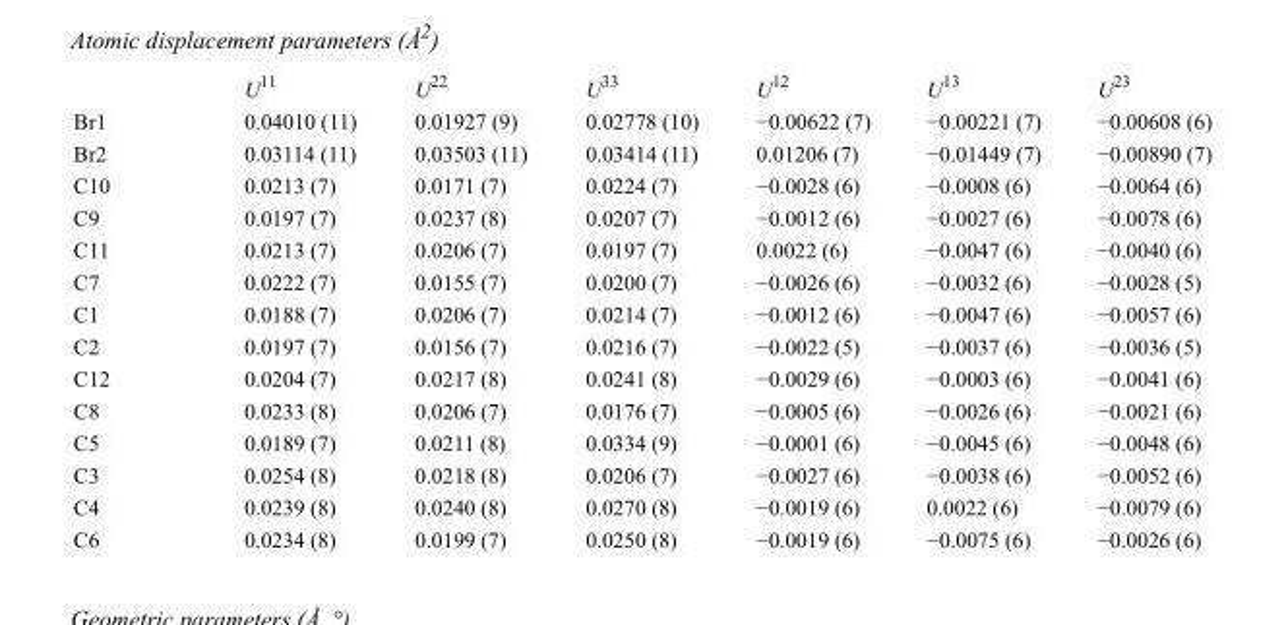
<table><thead><tr><td></td><td>U<sup>11</sup></td><td>U<sup>22</sup></td><td>U<sup>33</sup></td><td>U<sup>12</sup></td><td>U<sup>13</sup></td><td>U<sup>23</sup></td></tr></thead><tbody><tr><td>Br1</td><td>0.04010 (11)</td><td>0.01927 (9)</td><td>0.02778 (10)</td><td>−0.00622 (7)</td><td>−0.00221 (7)</td><td>−0.00608 (6)</td></tr><tr><td>Br2</td><td>0.03114 (11)</td><td>0.03503 (11)</td><td>0.03414 (11)</td><td>0.01206 (7)</td><td>−0.01449 (7)</td><td>−0.00890 (7)</td></tr><tr><td>C10</td><td>0.0213 (7)</td><td>0.0171 (7)</td><td>0.0224 (7)</td><td>−0.0028 (6)</td><td>−0.0008 (6)</td><td>−0.0064 (6)</td></tr><tr><td>C9</td><td>0.0197 (7)</td><td>0.0237 (8)</td><td>0.0207 (7)</td><td>−0.0012 (6)</td><td>−0.0027 (6)</td><td>−0.0078 (6)</td></tr><tr><td>C11</td><td>0.0213 (7)</td><td>0.0206 (7)</td><td>0.0197 (7)</td><td>0.0022 (6)</td><td>−0.0047 (6)</td><td>−0.0040 (6)</td></tr><tr><td>C7</td><td>0.0222 (7)</td><td>0.0155 (7)</td><td>0.0200 (7)</td><td>−0.0026 (6)</td><td>−0.0032 (6)</td><td>−0.0028 (5)</td></tr><tr><td>C1</td><td>0.0188 (7)</td><td>0.0206 (7)</td><td>0.0214 (7)</td><td>−0.0012 (6)</td><td>−0.0047 (6)</td><td>−0.0057 (6)</td></tr><tr><td>C2</td><td>0.0197 (7)</td><td>0.0156 (7)</td><td>0.0216 (7)</td><td>−0.0022 (5)</td><td>−0.0037 (6)</td><td>−0.0036 (5)</td></tr><tr><td>C12</td><td>0.0204 (7)</td><td>0.0217 (8)</td><td>0.0241 (8)</td><td>−0.0029 (6)</td><td>−0.0003 (6)</td><td>−0.0041 (6)</td></tr><tr><td>C8</td><td>0.0233 (8)</td><td>0.0206 (7)</td><td>0.0176 (7)</td><td>−0.0005 (6)</td><td>−0.0026 (6)</td><td>−0.0021 (6)</td></tr><tr><td>C5</td><td>0.0189 (7)</td><td>0.0211 (8)</td><td>0.0334 (9)</td><td>−0.0001 (6)</td><td>−0.0045 (6)</td><td>−0.0048 (6)</td></tr><tr><td>C3</td><td>0.0254 (8)</td><td>0.0218 (8)</td><td>0.0206 (7)</td><td>−0.0027 (6)</td><td>−0.0038 (6)</td><td>−0.0052 (6)</td></tr><tr><td>C4</td><td>0.0239 (8)</td><td>0.0240 (8)</td><td>0.0270 (8)</td><td>−0.0019 (6)</td><td>0.0022 (6)</td><td>−0.0079 (6)</td></tr><tr><td>C6</td><td>0.0234 (8)</td><td>0.0199 (7)</td><td>0.0250 (8)</td><td>−0.0019 (6)</td><td>−0.0075 (6)</td><td>−0.0026 (6)</td></tr></tbody></table>